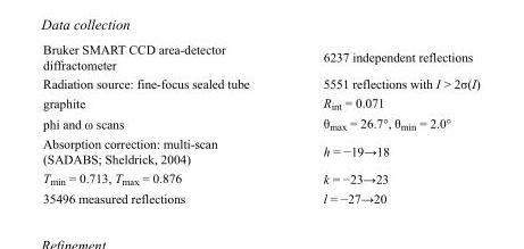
<table><tbody><tr><td>Bruker SMART CCD area-detector diffractometer</td><td>6237 independent reflections</td></tr><tr><td>Radiation source: fine-focus sealed tube</td><td>5551 reflections with I &gt; 2σ(I)</td></tr><tr><td>graphite</td><td>R<sub>int</sub> = 0.071</td></tr><tr><td>phi and ω scans</td><td>θ<sub>max</sub> = 26.7°, θ<sub>min</sub> = 2.0°</td></tr><tr><td>Absorption correction: multi-scan (SADABS; Sheldrick, 2004)</td><td>h = −19→18</td></tr><tr><td>T<sub>min</sub> = 0.713, T<sub>max</sub> = 0.876</td><td>k = −23→23</td></tr><tr><td>35496 measured reflections</td><td>l = −27→20</td></tr></tbody></table>